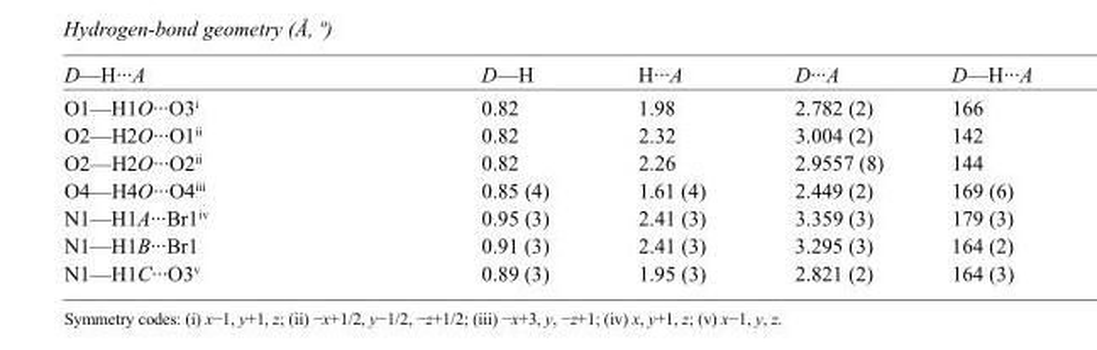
<table><tbody><tr><td>D—H···A</td><td>D—H</td><td>H···A</td><td>D···A</td><td>D—H···A</td></tr><tr><td>O1—H1O···O3<sup>i</sup></td><td>0.82</td><td>1.98</td><td>2.782 (2)</td><td>166</td></tr><tr><td>O2—H2O···O1<sup>ii</sup></td><td>0.82</td><td>2.32</td><td>3.004 (2)</td><td>142</td></tr><tr><td>O2—H2O···O2<sup>ii</sup></td><td>0.82</td><td>2.26</td><td>2.9557 (8)</td><td>144</td></tr><tr><td>O4—H4O···O4<sup>iii</sup></td><td>0.85 (4)</td><td>1.61 (4)</td><td>2.449 (2)</td><td>169 (6)</td></tr><tr><td>N1—H1A···Br1<sup>iv</sup></td><td>0.95 (3)</td><td>2.41 (3)</td><td>3.359 (3)</td><td>179 (3)</td></tr><tr><td>N1—H1B···Br1</td><td>0.91 (3)</td><td>2.41 (3)</td><td>3.295 (3)</td><td>164 (2)</td></tr><tr><td>N1—H1C···O3<sup>v</sup></td><td>0.89 (3)</td><td>1.95 (3)</td><td>2.821 (2)</td><td>164 (3)</td></tr></tbody></table>